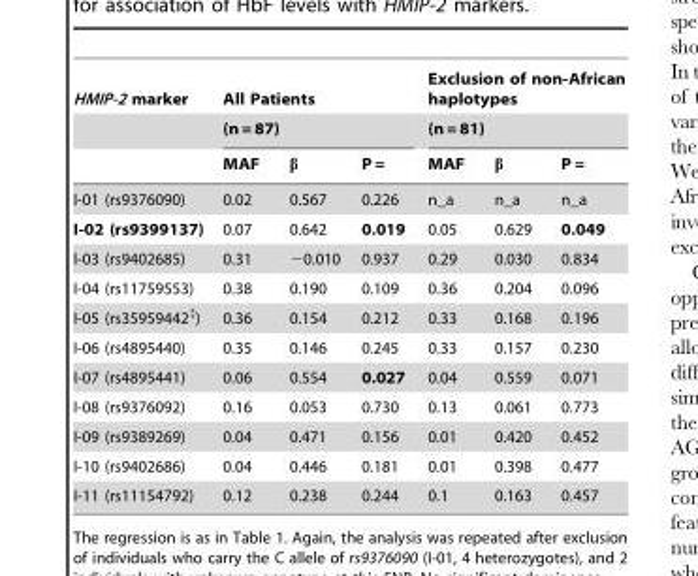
<table><thead><tr><td rowspan="3">HMIP-2 marker</td><td rowspan="2" colspan="3">All Patients (n = 87)</td><td rowspan="2" colspan="3">Exclusion of non-African haplotypes (n = 81)</td></tr><tr></tr><tr><td>MAF</td><td>β</td><td>P =</td><td>MAF</td><td>β</td><td>P =</td></tr></thead><tbody><tr><td>I-01 (rs9376090)</td><td>0.02</td><td>0.567</td><td>0.226</td><td>n_a</td><td>n_a</td><td>n_a</td></tr><tr><td>I-02 (rs9399137)</td><td>0.07</td><td>0.642</td><td>0.019</td><td>0.05</td><td>0.629</td><td>0.049</td></tr><tr><td>I-03 (rs9402685)</td><td>0.31</td><td>−0.010</td><td>0.937</td><td>0.29</td><td>0.030</td><td>0.834</td></tr><tr><td>I-04 (rs11759553)</td><td>0.38</td><td>0.190</td><td>0.109</td><td>0.36</td><td>0.204</td><td>0.096</td></tr><tr><td>I-05 (rs35959442<sup>‡</sup>)</td><td>0.36</td><td>0.154</td><td>0.212</td><td>0.33</td><td>0.168</td><td>0.196</td></tr><tr><td>I-06 (rs4895440)</td><td>0.35</td><td>0.146</td><td>0.245</td><td>0.33</td><td>0.157</td><td>0.230</td></tr><tr><td>I-07 (rs4895441)</td><td>0.06</td><td>0.554</td><td>0.027</td><td>0.04</td><td>0.559</td><td>0.071</td></tr><tr><td>I-08 (rs9376092)</td><td>0.16</td><td>0.053</td><td>0.730</td><td>0.13</td><td>0.061</td><td>0.773</td></tr><tr><td>I-09 (rs9389269)</td><td>0.04</td><td>0.471</td><td>0.156</td><td>0.01</td><td>0.420</td><td>0.452</td></tr><tr><td>I-10 (rs9402686)</td><td>0.04</td><td>0.446</td><td>0.181</td><td>0.01</td><td>0.398</td><td>0.477</td></tr><tr><td>I-11 (rs11154792)</td><td>0.12</td><td>0.238</td><td>0.244</td><td>0.1</td><td>0.163</td><td>0.457</td></tr></tbody></table>